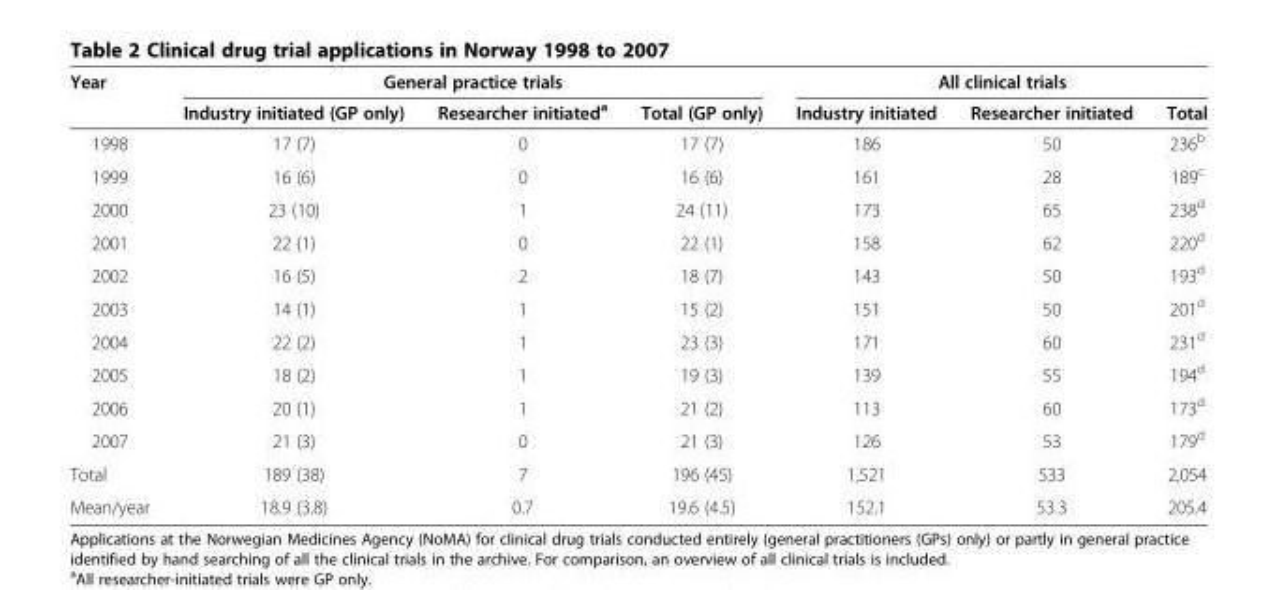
<table><thead><tr><td rowspan="2">Year</td><td colspan="3">General practice trials</td><td colspan="3">All clinical trials</td></tr><tr><td>Industry initiated (GP only)</td><td>Researcher initiated<sup>a</sup></td><td>Total (GP only)</td><td>Industry initiated</td><td>Researcher initiated</td><td>Total</td></tr></thead><tbody><tr><td>1998</td><td>17 (7)</td><td>0</td><td>17 (7)</td><td>186</td><td>50</td><td>236<sup>b</sup></td></tr><tr><td>1999</td><td>16 (6)</td><td>0</td><td>16 (6)</td><td>161</td><td>28</td><td>189<sup>c</sup></td></tr><tr><td>2000</td><td>23 (10)</td><td>1</td><td>24 (11)</td><td>173</td><td>65</td><td>238<sup>d</sup></td></tr><tr><td>2001</td><td>22 (1)</td><td>0</td><td>22 (1)</td><td>158</td><td>62</td><td>220<sup>d</sup></td></tr><tr><td>2002</td><td>16 (5)</td><td>2</td><td>18 (7)</td><td>143</td><td>50</td><td>193<sup>d</sup></td></tr><tr><td>2003</td><td>14 (1)</td><td>1</td><td>15 (2)</td><td>151</td><td>50</td><td>201<sup>d</sup></td></tr><tr><td>2004</td><td>22 (2)</td><td>1</td><td>23 (3)</td><td>171</td><td>60</td><td>231<sup>d</sup></td></tr><tr><td>2005</td><td>18 (2)</td><td>1</td><td>19 (3)</td><td>139</td><td>55</td><td>194<sup>d</sup></td></tr><tr><td>2006</td><td>20 (1)</td><td>1</td><td>21 (2)</td><td>113</td><td>60</td><td>173<sup>d</sup></td></tr><tr><td>2007</td><td>21 (3)</td><td>0</td><td>21 (3)</td><td>126</td><td>53</td><td>179<sup>d</sup></td></tr><tr><td>Total</td><td>189 (38)</td><td>7</td><td>196 (45)</td><td>1,521</td><td>533</td><td>2,054</td></tr><tr><td>Mean/year</td><td>18.9 (3.8)</td><td>0.7</td><td>19.6 (4.5)</td><td>152.1</td><td>53.3</td><td>205.4</td></tr></tbody></table>